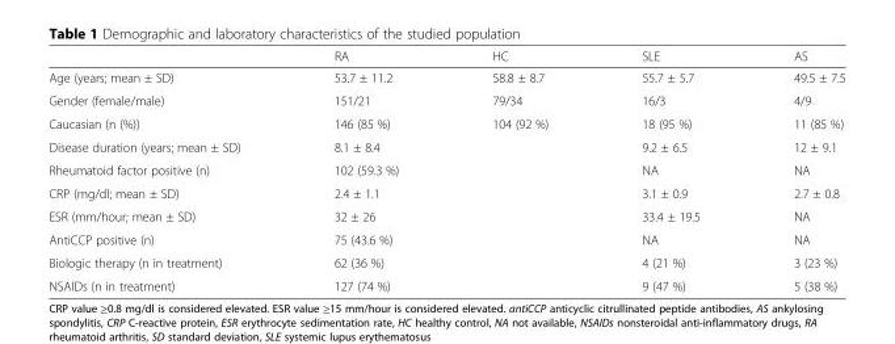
<table><thead><tr><td></td><td>RA</td><td>HC</td><td>SLE</td><td>AS</td></tr></thead><tbody><tr><td>Age (years; mean ± SD)</td><td>53.7 ± 11.2</td><td>58.8 ± 8.7</td><td>55.7 ± 5.7</td><td>49.5 ± 7.5</td></tr><tr><td>Gender (female/male)</td><td>151/21</td><td>79/34</td><td>16/3</td><td>4/9</td></tr><tr><td>Caucasian (n (%))</td><td>146 (85 %)</td><td>104 (92 %)</td><td>18 (95 %)</td><td>11 (85 %)</td></tr><tr><td>Disease duration (years; mean ± SD)</td><td>8.1 ± 8.4</td><td></td><td>9.2 ± 6.5</td><td>12 ± 9.1</td></tr><tr><td>Rheumatoid factor positive (n)</td><td>102 (59.3 %)</td><td></td><td>NA</td><td>NA</td></tr><tr><td>CRP (mg/dl; mean ± SD)</td><td>2.4 ± 1.1</td><td></td><td>3.1 ± 0.9</td><td>2.7 ± 0.8</td></tr><tr><td>ESR (mm/hour; mean ± SD)</td><td>32 ± 26</td><td></td><td>33.4 ± 19.5</td><td>NA</td></tr><tr><td>AntiCCP positive (n)</td><td>75 (43.6 %)</td><td></td><td>NA</td><td>NA</td></tr><tr><td>Biologic therapy (n in treatment)</td><td>62 (36 %)</td><td></td><td>4 (21 %)</td><td>3 (23 %)</td></tr><tr><td>NSAIDs (n in treatment)</td><td>127 (74 %)</td><td></td><td>9 (47 %)</td><td>5 (38 %)</td></tr></tbody></table>